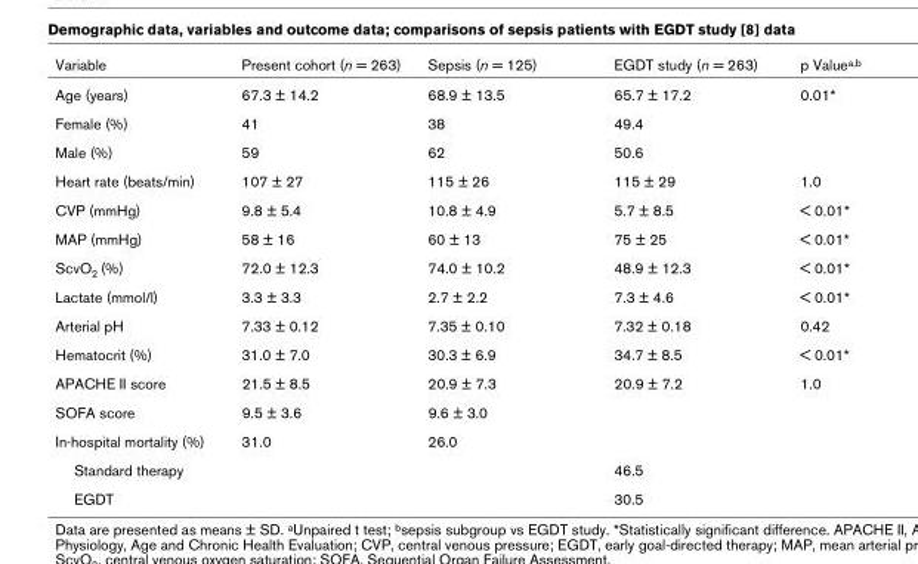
<table><thead><tr><td>Variable</td><td>Present cohort (n = 263)</td><td>Sepsis (n = 125)</td><td>EGDT study (n = 263)</td><td>p Value<sup>a,b</sup></td></tr></thead><tbody><tr><td>Age (years)</td><td>67.3 ± 14.2</td><td>68.9 ± 13.5</td><td>65.7 ± 17.2</td><td>0.01*</td></tr><tr><td>Female (%)</td><td>41</td><td>38</td><td>49.4</td><td></td></tr><tr><td>Male (%)</td><td>59</td><td>62</td><td>50.6</td><td></td></tr><tr><td>Heart rate (beats/min)</td><td>107 ± 27</td><td>115 ± 26</td><td>115 ± 29</td><td>1.0</td></tr><tr><td>CVP (mmHg)</td><td>9.8 ± 5.4</td><td>10.8 ± 4.9</td><td>5.7 ± 8.5</td><td>&lt; 0.01*</td></tr><tr><td>MAP (mmHg)</td><td>58 ± 16</td><td>60 ± 13</td><td>75 ± 25</td><td>&lt; 0.01*</td></tr><tr><td>ScvO<sub>2</sub> (%)</td><td>72.0 ± 12.3</td><td>74.0 ± 10.2</td><td>48.9 ± 12.3</td><td>&lt; 0.01*</td></tr><tr><td>Lactate (mmol/l)</td><td>3.3 ± 3.3</td><td>2.7 ± 2.2</td><td>7.3 ± 4.6</td><td>&lt; 0.01*</td></tr><tr><td>Arterial pH</td><td>7.33 ± 0.12</td><td>7.35 ± 0.10</td><td>7.32 ± 0.18</td><td>0.42</td></tr><tr><td>Hematocrit (%)</td><td>31.0 ± 7.0</td><td>30.3 ± 6.9</td><td>34.7 ± 8.5</td><td>&lt; 0.01*</td></tr><tr><td>APACHE II score</td><td>21.5 ± 8.5</td><td>20.9 ± 7.3</td><td>20.9 ± 7.2</td><td>1.0</td></tr><tr><td>SOFA score</td><td>9.5 ± 3.6</td><td>9.6 ± 3.0</td><td></td><td></td></tr><tr><td>In-hospital mortality (%)</td><td>31.0</td><td>26.0</td><td></td><td></td></tr><tr><td>Standard therapy</td><td></td><td></td><td>46.5</td><td></td></tr><tr><td>EGDT</td><td></td><td></td><td>30.5</td><td></td></tr></tbody></table>